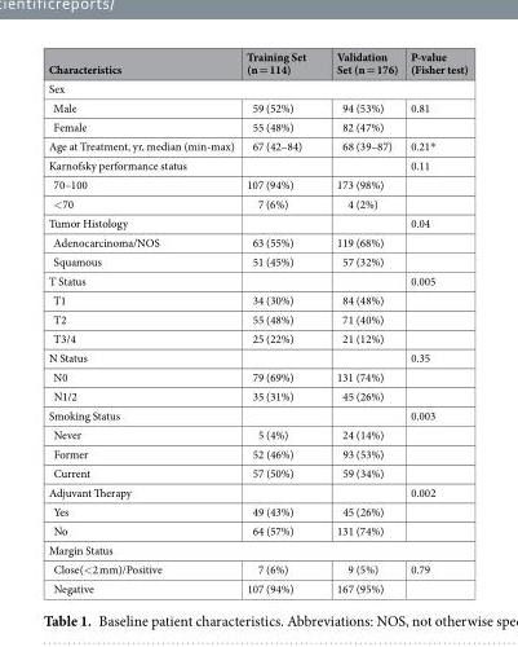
<table><thead><tr><td>Characteristics</td><td>Training Set (n = 114)</td><td>Validation Set (n = 176)</td><td>P-value (Fisher test)</td></tr></thead><tbody><tr><td colspan="4">Sex</td></tr><tr><td>Male</td><td>59 (52%)</td><td>94 (53%)</td><td>0.81</td></tr><tr><td>Female</td><td>55 (48%)</td><td>82 (47%)</td><td></td></tr><tr><td>Age at Treatment, yr, median (min-max)</td><td>67 (42–84)</td><td>68 (39–87)</td><td>0.21*</td></tr><tr><td>Karnofsky performance status</td><td></td><td></td><td>0.11</td></tr><tr><td>70–100</td><td>107 (94%)</td><td>173 (98%)</td><td></td></tr><tr><td>&lt;70</td><td>7 (6%)</td><td>4 (2%)</td><td></td></tr><tr><td>Tumor Histology</td><td></td><td></td><td>0.04</td></tr><tr><td>Adenocarcinoma/NOS</td><td>63 (55%)</td><td>119 (68%)</td><td></td></tr><tr><td>Squamous</td><td>51 (45%)</td><td>57 (32%)</td><td></td></tr><tr><td>T Status</td><td></td><td></td><td>0.005</td></tr><tr><td>T1</td><td>34 (30%)</td><td>84 (48%)</td><td></td></tr><tr><td>T2</td><td>55 (48%)</td><td>71 (40%)</td><td></td></tr><tr><td>T3/4</td><td>25 (22%)</td><td>21 (12%)</td><td></td></tr><tr><td>N Status</td><td></td><td></td><td>0.35</td></tr><tr><td>N0</td><td>79 (69%)</td><td>131 (74%)</td><td></td></tr><tr><td>N1/2</td><td>35 (31%)</td><td>45 (26%)</td><td></td></tr><tr><td>Smoking Status</td><td></td><td></td><td>0.003</td></tr><tr><td>Never</td><td>5 (4%)</td><td>24 (14%)</td><td></td></tr><tr><td>Former</td><td>52 (46%)</td><td>93 (53%)</td><td></td></tr><tr><td>Current</td><td>57 (50%)</td><td>59 (34%)</td><td></td></tr><tr><td>Adjuvant Therapy</td><td></td><td></td><td>0.002</td></tr><tr><td>Yes</td><td>49 (43%)</td><td>45 (26%)</td><td></td></tr><tr><td>No</td><td>64 (57%)</td><td>131 (74%)</td><td></td></tr><tr><td colspan="4">Margin Status</td></tr><tr><td>Close(&lt;2 mm)/Positive</td><td>7 (6%)</td><td>9 (5%)</td><td>0.79</td></tr><tr><td>Negative</td><td>107 (94%)</td><td>167 (95%)</td><td></td></tr></tbody></table>